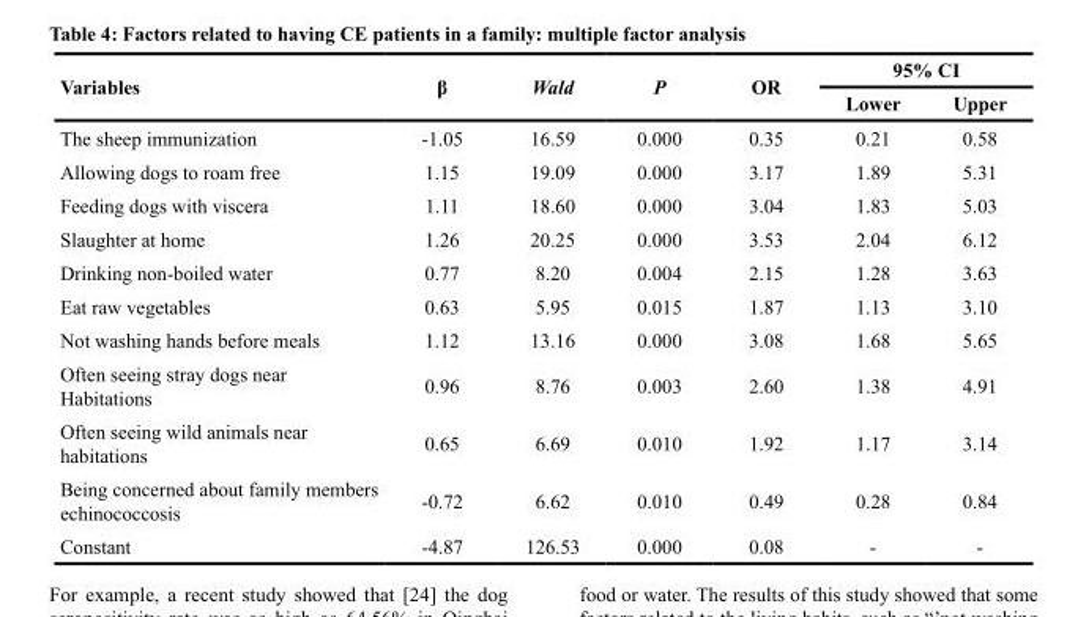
<table><thead><tr><td rowspan="2">Variables</td><td rowspan="2">β</td><td rowspan="2">Wald</td><td rowspan="2">P</td><td rowspan="2">OR</td><td colspan="2">95% CI</td></tr><tr><td>Lower</td><td>Upper</td></tr></thead><tbody><tr><td>The sheep immunization</td><td>-1.05</td><td>16.59</td><td>0.000</td><td>0.35</td><td>0.21</td><td>0.58</td></tr><tr><td>Allowing dogs to roam free</td><td>1.15</td><td>19.09</td><td>0.000</td><td>3.17</td><td>1.89</td><td>5.31</td></tr><tr><td>Feeding dogs with viscera</td><td>1.11</td><td>18.60</td><td>0.000</td><td>3.04</td><td>1.83</td><td>5.03</td></tr><tr><td>Slaughter at home</td><td>1.26</td><td>20.25</td><td>0.000</td><td>3.53</td><td>2.04</td><td>6.12</td></tr><tr><td>Drinking non-boiled water</td><td>0.77</td><td>8.20</td><td>0.004</td><td>2.15</td><td>1.28</td><td>3.63</td></tr><tr><td>Eat raw vegetables</td><td>0.63</td><td>5.95</td><td>0.015</td><td>1.87</td><td>1.13</td><td>3.10</td></tr><tr><td>Not washing hands before meals</td><td>1.12</td><td>13.16</td><td>0.000</td><td>3.08</td><td>1.68</td><td>5.65</td></tr><tr><td>Often seeing stray dogs near Habitations</td><td>0.96</td><td>8.76</td><td>0.003</td><td>2.60</td><td>1.38</td><td>4.91</td></tr><tr><td>Often seeing wild animals near habitations</td><td>0.65</td><td>6.69</td><td>0.010</td><td>1.92</td><td>1.17</td><td>3.14</td></tr><tr><td>Being concerned about family members echinococcosis</td><td>-0.72</td><td>6.62</td><td>0.010</td><td>0.49</td><td>0.28</td><td>0.84</td></tr><tr><td>Constant</td><td>-4.87</td><td>126.53</td><td>0.000</td><td>0.08</td><td>-</td><td>-</td></tr></tbody></table>